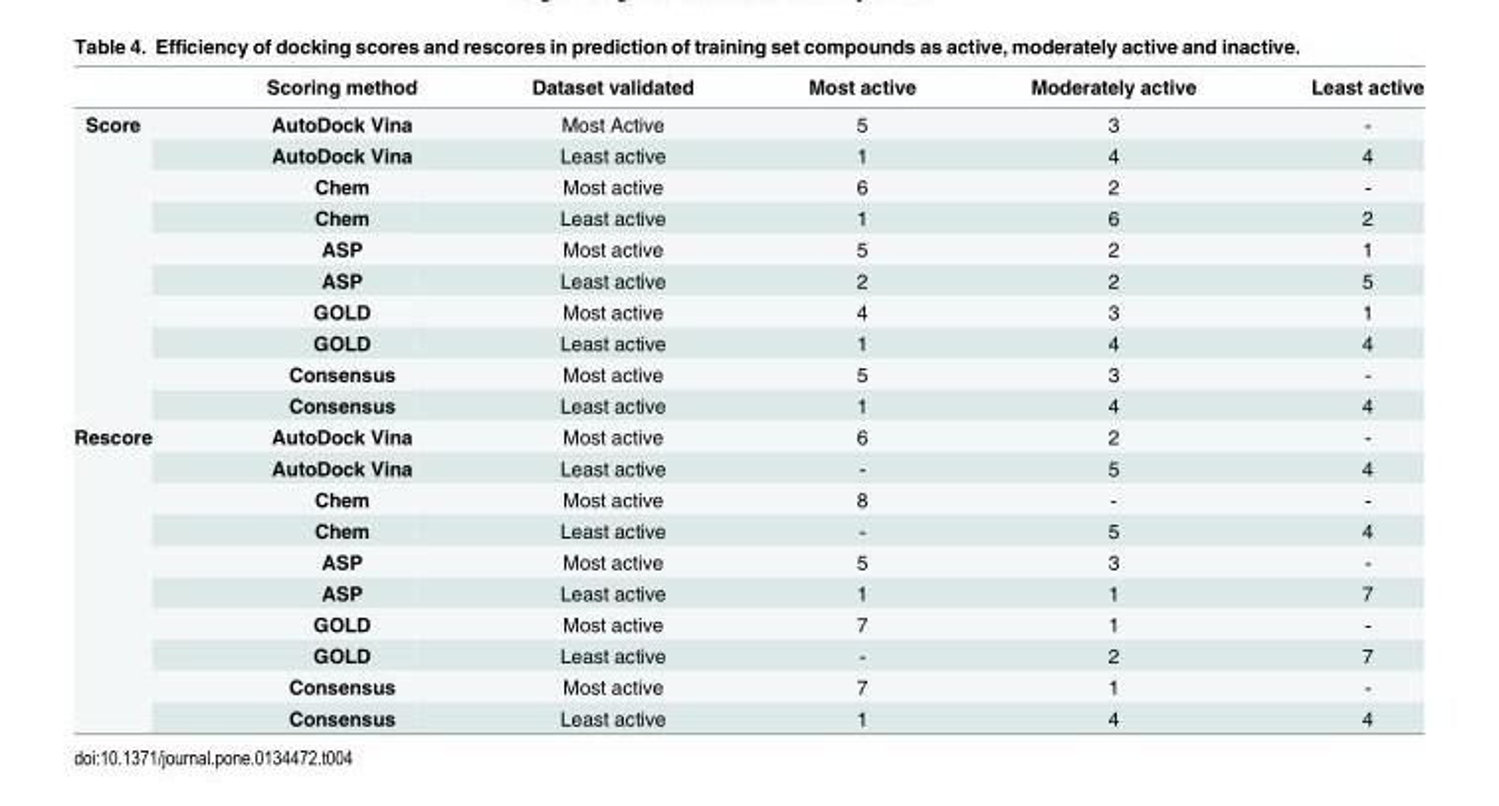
<table><thead><tr><td></td><td>Scoring method</td><td>Dataset validated</td><td>Most active</td><td>Moderately active</td><td>Least active</td></tr></thead><tbody><tr><td rowspan="10">Score</td><td>AutoDock Vina</td><td>Most Active</td><td>5</td><td>3</td><td>-</td></tr><tr><td>AutoDock Vina</td><td>Least active</td><td>1</td><td>4</td><td>4</td></tr><tr><td>Chem</td><td>Most active</td><td>6</td><td>2</td><td>-</td></tr><tr><td>Chem</td><td>Least active</td><td>1</td><td>6</td><td>2</td></tr><tr><td>ASP</td><td>Most active</td><td>5</td><td>2</td><td>1</td></tr><tr><td>ASP</td><td>Least active</td><td>2</td><td>2</td><td>5</td></tr><tr><td>GOLD</td><td>Most active</td><td>4</td><td>3</td><td>1</td></tr><tr><td>GOLD</td><td>Least active</td><td>1</td><td>4</td><td>4</td></tr><tr><td>Consensus</td><td>Most active</td><td>5</td><td>3</td><td>-</td></tr><tr><td>Consensus</td><td>Least active</td><td>1</td><td>4</td><td>4</td></tr><tr><td rowspan="10">Rescore</td><td>AutoDock Vina</td><td>Most active</td><td>6</td><td>2</td><td>-</td></tr><tr><td>AutoDock Vina</td><td>Least active</td><td>-</td><td>5</td><td>4</td></tr><tr><td>Chem</td><td>Most active</td><td>8</td><td>-</td><td>-</td></tr><tr><td>Chem</td><td>Least active</td><td>-</td><td>5</td><td>4</td></tr><tr><td>ASP</td><td>Most active</td><td>5</td><td>3</td><td>-</td></tr><tr><td>ASP</td><td>Least active</td><td>1</td><td>1</td><td>7</td></tr><tr><td>GOLD</td><td>Most active</td><td>7</td><td>1</td><td>-</td></tr><tr><td>GOLD</td><td>Least active</td><td>-</td><td>2</td><td>7</td></tr><tr><td>Consensus</td><td>Most active</td><td>7</td><td>1</td><td>-</td></tr><tr><td>Consensus</td><td>Least active</td><td>1</td><td>4</td><td>4</td></tr></tbody></table>